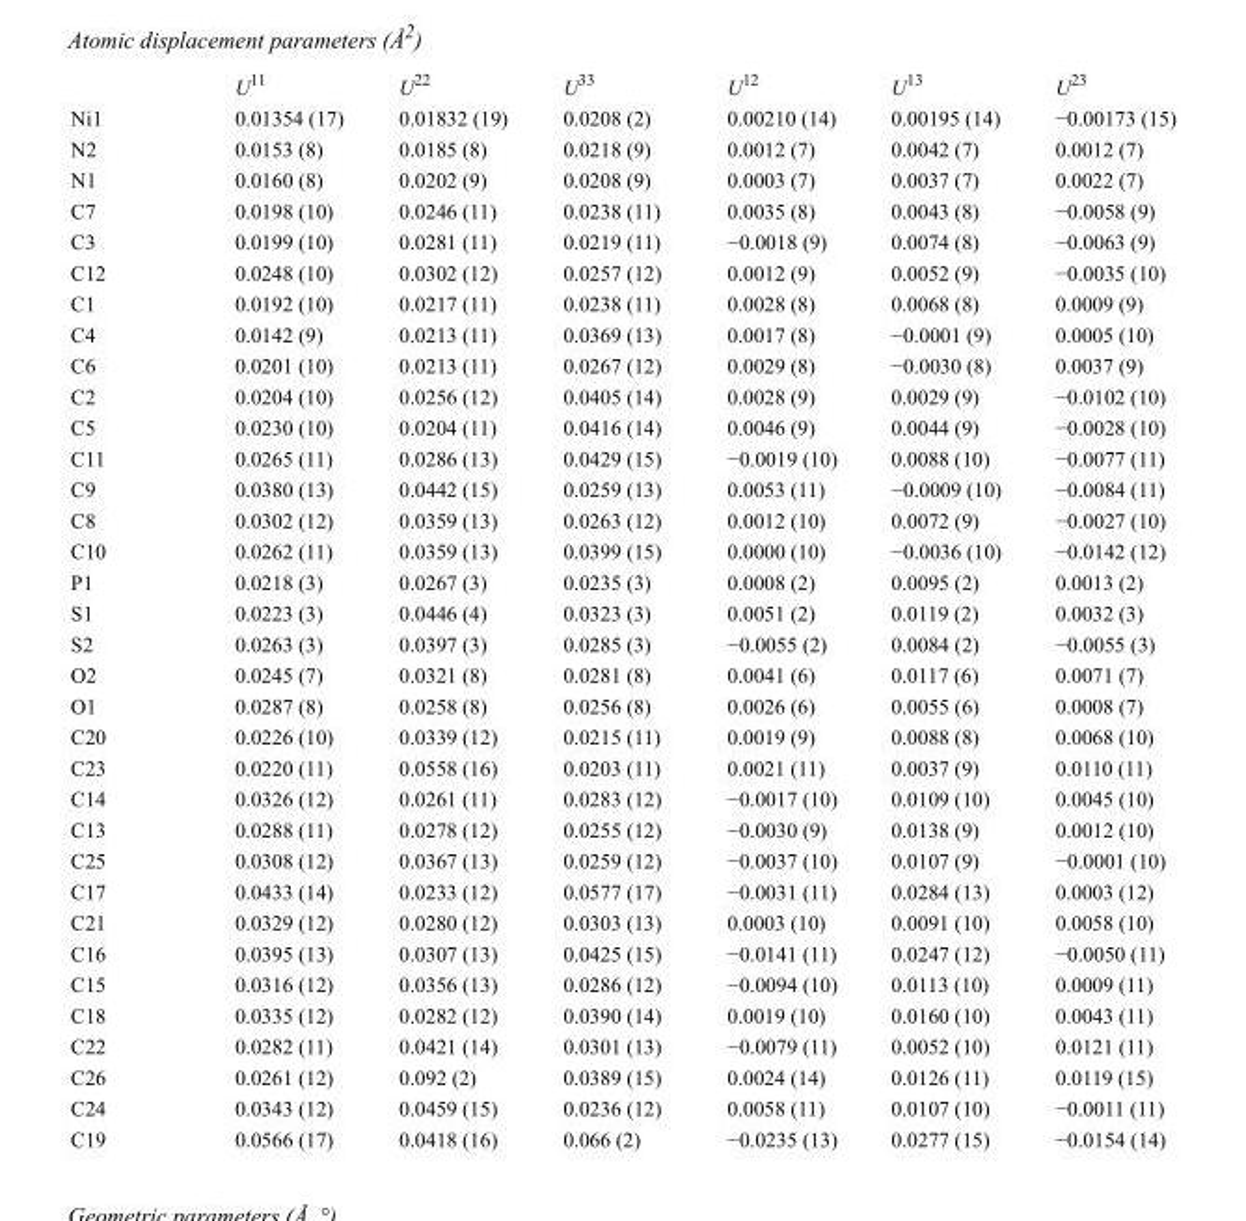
<table><thead><tr><td></td><td>U<sup>11</sup></td><td>U<sup>22</sup></td><td>U<sup>33</sup></td><td>U<sup>12</sup></td><td>U<sup>13</sup></td><td>U<sup>23</sup></td></tr></thead><tbody><tr><td>Ni1</td><td>0.01354 (17)</td><td>0.01832 (19)</td><td>0.0208 (2)</td><td>0.00210 (14)</td><td>0.00195 (14)</td><td>−0.00173 (15)</td></tr><tr><td>N2</td><td>0.0153 (8)</td><td>0.0185 (8)</td><td>0.0218 (9)</td><td>0.0012 (7)</td><td>0.0042 (7)</td><td>0.0012 (7)</td></tr><tr><td>N1</td><td>0.0160 (8)</td><td>0.0202 (9)</td><td>0.0208 (9)</td><td>0.0003 (7)</td><td>0.0037 (7)</td><td>0.0022 (7)</td></tr><tr><td>C7</td><td>0.0198 (10)</td><td>0.0246 (11)</td><td>0.0238 (11)</td><td>0.0035 (8)</td><td>0.0043 (8)</td><td>−0.0058 (9)</td></tr><tr><td>C3</td><td>0.0199 (10)</td><td>0.0281 (11)</td><td>0.0219 (11)</td><td>−0.0018 (9)</td><td>0.0074 (8)</td><td>−0.0063 (9)</td></tr><tr><td>C12</td><td>0.0248 (10)</td><td>0.0302 (12)</td><td>0.0257 (12)</td><td>0.0012 (9)</td><td>0.0052 (9)</td><td>−0.0035 (10)</td></tr><tr><td>C1</td><td>0.0192 (10)</td><td>0.0217 (11)</td><td>0.0238 (11)</td><td>0.0028 (8)</td><td>0.0068 (8)</td><td>0.0009 (9)</td></tr><tr><td>C4</td><td>0.0142 (9)</td><td>0.0213 (11)</td><td>0.0369 (13)</td><td>0.0017 (8)</td><td>−0.0001 (9)</td><td>0.0005 (10)</td></tr><tr><td>C6</td><td>0.0201 (10)</td><td>0.0213 (11)</td><td>0.0267 (12)</td><td>0.0029 (8)</td><td>−0.0030 (8)</td><td>0.0037 (9)</td></tr><tr><td>C2</td><td>0.0204 (10)</td><td>0.0256 (12)</td><td>0.0405 (14)</td><td>0.0028 (9)</td><td>0.0029 (9)</td><td>−0.0102 (10)</td></tr><tr><td>C5</td><td>0.0230 (10)</td><td>0.0204 (11)</td><td>0.0416 (14)</td><td>0.0046 (9)</td><td>0.0044 (9)</td><td>−0.0028 (10)</td></tr><tr><td>C11</td><td>0.0265 (11)</td><td>0.0286 (13)</td><td>0.0429 (15)</td><td>−0.0019 (10)</td><td>0.0088 (10)</td><td>−0.0077 (11)</td></tr><tr><td>C9</td><td>0.0380 (13)</td><td>0.0442 (15)</td><td>0.0259 (13)</td><td>0.0053 (11)</td><td>−0.0009 (10)</td><td>−0.0084 (11)</td></tr><tr><td>C8</td><td>0.0302 (12)</td><td>0.0359 (13)</td><td>0.0263 (12)</td><td>0.0012 (10)</td><td>0.0072 (9)</td><td>−0.0027 (10)</td></tr><tr><td>C10</td><td>0.0262 (11)</td><td>0.0359 (13)</td><td>0.0399 (15)</td><td>0.0000 (10)</td><td>−0.0036 (10)</td><td>−0.0142 (12)</td></tr><tr><td>P1</td><td>0.0218 (3)</td><td>0.0267 (3)</td><td>0.0235 (3)</td><td>0.0008 (2)</td><td>0.0095 (2)</td><td>0.0013 (2)</td></tr><tr><td>S1</td><td>0.0223 (3)</td><td>0.0446 (4)</td><td>0.0323 (3)</td><td>0.0051 (2)</td><td>0.0119 (2)</td><td>0.0032 (3)</td></tr><tr><td>S2</td><td>0.0263 (3)</td><td>0.0397 (3)</td><td>0.0285 (3)</td><td>−0.0055 (2)</td><td>0.0084 (2)</td><td>−0.0055 (3)</td></tr><tr><td>O2</td><td>0.0245 (7)</td><td>0.0321 (8)</td><td>0.0281 (8)</td><td>0.0041 (6)</td><td>0.0117 (6)</td><td>0.0071 (7)</td></tr><tr><td>O1</td><td>0.0287 (8)</td><td>0.0258 (8)</td><td>0.0256 (8)</td><td>0.0026 (6)</td><td>0.0055 (6)</td><td>0.0008 (7)</td></tr><tr><td>C20</td><td>0.0226 (10)</td><td>0.0339 (12)</td><td>0.0215 (11)</td><td>0.0019 (9)</td><td>0.0088 (8)</td><td>0.0068 (10)</td></tr><tr><td>C23</td><td>0.0220 (11)</td><td>0.0558 (16)</td><td>0.0203 (11)</td><td>0.0021 (11)</td><td>0.0037 (9)</td><td>0.0110 (11)</td></tr><tr><td>C14</td><td>0.0326 (12)</td><td>0.0261 (11)</td><td>0.0283 (12)</td><td>−0.0017 (10)</td><td>0.0109 (10)</td><td>0.0045 (10)</td></tr><tr><td>C13</td><td>0.0288 (11)</td><td>0.0278 (12)</td><td>0.0255 (12)</td><td>−0.0030 (9)</td><td>0.0138 (9)</td><td>0.0012 (10)</td></tr><tr><td>C25</td><td>0.0308 (12)</td><td>0.0367 (13)</td><td>0.0259 (12)</td><td>−0.0037 (10)</td><td>0.0107 (9)</td><td>−0.0001 (10)</td></tr><tr><td>C17</td><td>0.0433 (14)</td><td>0.0233 (12)</td><td>0.0577 (17)</td><td>−0.0031 (11)</td><td>0.0284 (13)</td><td>0.0003 (12)</td></tr><tr><td>C21</td><td>0.0329 (12)</td><td>0.0280 (12)</td><td>0.0303 (13)</td><td>0.0003 (10)</td><td>0.0091 (10)</td><td>0.0058 (10)</td></tr><tr><td>C16</td><td>0.0395 (13)</td><td>0.0307 (13)</td><td>0.0425 (15)</td><td>−0.0141 (11)</td><td>0.0247 (12)</td><td>−0.0050 (11)</td></tr><tr><td>C15</td><td>0.0316 (12)</td><td>0.0356 (13)</td><td>0.0286 (12)</td><td>−0.0094 (10)</td><td>0.0113 (10)</td><td>0.0009 (11)</td></tr><tr><td>C18</td><td>0.0335 (12)</td><td>0.0282 (12)</td><td>0.0390 (14)</td><td>0.0019 (10)</td><td>0.0160 (10)</td><td>0.0043 (11)</td></tr><tr><td>C22</td><td>0.0282 (11)</td><td>0.0421 (14)</td><td>0.0301 (13)</td><td>−0.0079 (11)</td><td>0.0052 (10)</td><td>0.0121 (11)</td></tr><tr><td>C26</td><td>0.0261 (12)</td><td>0.092 (2)</td><td>0.0389 (15)</td><td>0.0024 (14)</td><td>0.0126 (11)</td><td>0.0119 (15)</td></tr><tr><td>C24</td><td>0.0343 (12)</td><td>0.0459 (15)</td><td>0.0236 (12)</td><td>0.0058 (11)</td><td>0.0107 (10)</td><td>−0.0011 (11)</td></tr><tr><td>C19</td><td>0.0566 (17)</td><td>0.0418 (16)</td><td>0.066 (2)</td><td>−0.0235 (13)</td><td>0.0277 (15)</td><td>−0.0154 (14)</td></tr></tbody></table>